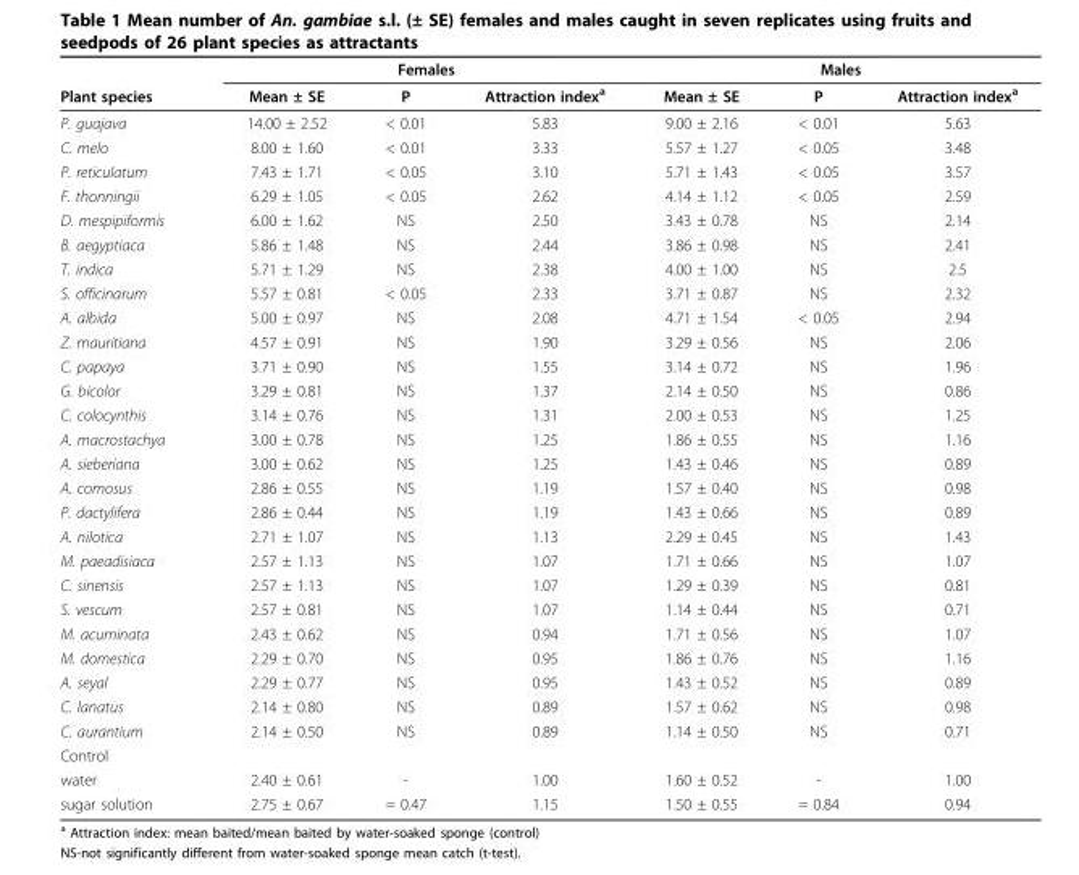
<table><thead><tr><td rowspan="2">Plant species</td><td colspan="3">Females</td><td colspan="3">Males</td></tr><tr><td>Mean ± SE</td><td>P</td><td>Attraction index<sup>a</sup></td><td>Mean ± SE</td><td>P</td><td>Attraction index<sup>a</sup></td></tr></thead><tbody><tr><td>P. guajava</td><td>14.00 ± 2.52</td><td>&lt; 0.01</td><td>5.83</td><td>9.00 ± 2.16</td><td>&lt; 0.01</td><td>5.63</td></tr><tr><td>C. melo</td><td>8.00 ± 1.60</td><td>&lt; 0.01</td><td>3.33</td><td>5.57 ± 1.27</td><td>&lt; 0.05</td><td>3.48</td></tr><tr><td>P. reticulatum</td><td>7.43 ± 1.71</td><td>&lt; 0.05</td><td>3.10</td><td>5.71 ± 1.43</td><td>&lt; 0.05</td><td>3.57</td></tr><tr><td>F. thonningii</td><td>6.29 ± 1.05</td><td>&lt; 0.05</td><td>2.62</td><td>4.14 ± 1.12</td><td>&lt; 0.05</td><td>2.59</td></tr><tr><td>D. mespipiformis</td><td>6.00 ± 1.62</td><td>NS</td><td>2.50</td><td>3.43 ± 0.78</td><td>NS</td><td>2.14</td></tr><tr><td>B. aegyptiaca</td><td>5.86 ± 1.48</td><td>NS</td><td>2.44</td><td>3.86 ± 0.98</td><td>NS</td><td>2.41</td></tr><tr><td>T. indica</td><td>5.71 ± 1.29</td><td>NS</td><td>2.38</td><td>4.00 ± 1.00</td><td>NS</td><td>2.5</td></tr><tr><td>S. officinarum</td><td>5.57 ± 0.81</td><td>&lt; 0.05</td><td>2.33</td><td>3.71 ± 0.87</td><td>NS</td><td>2.32</td></tr><tr><td>A. albida</td><td>5.00 ± 0.97</td><td>NS</td><td>2.08</td><td>4.71 ± 1.54</td><td>&lt; 0.05</td><td>2.94</td></tr><tr><td>Z. mauritiana</td><td>4.57 ± 0.91</td><td>NS</td><td>1.90</td><td>3.29 ± 0.56</td><td>NS</td><td>2.06</td></tr><tr><td>C. papaya</td><td>3.71 ± 0.90</td><td>NS</td><td>1.55</td><td>3.14 ± 0.72</td><td>NS</td><td>1.96</td></tr><tr><td>G. bicolor</td><td>3.29 ± 0.81</td><td>NS</td><td>1.37</td><td>2.14 ± 0.50</td><td>NS</td><td>0.86</td></tr><tr><td>C. colocynthis</td><td>3.14 ± 0.76</td><td>NS</td><td>1.31</td><td>2.00 ± 0.53</td><td>NS</td><td>1.25</td></tr><tr><td>A. macrostachya</td><td>3.00 ± 0.78</td><td>NS</td><td>1.25</td><td>1.86 ± 0.55</td><td>NS</td><td>1.16</td></tr><tr><td>A. sieberiana</td><td>3.00 ± 0.62</td><td>NS</td><td>1.25</td><td>1.43 ± 0.46</td><td>NS</td><td>0.89</td></tr><tr><td>A. comosus</td><td>2.86 ± 0.55</td><td>NS</td><td>1.19</td><td>1.57 ± 0.40</td><td>NS</td><td>0.98</td></tr><tr><td>P. dactylifera</td><td>2.86 ± 0.44</td><td>NS</td><td>1.19</td><td>1.43 ± 0.66</td><td>NS</td><td>0.89</td></tr><tr><td>A. nilotica</td><td>2.71 ± 1.07</td><td>NS</td><td>1.13</td><td>2.29 ± 0.45</td><td>NS</td><td>1.43</td></tr><tr><td>M. paeadisiaca</td><td>2.57 ± 1.13</td><td>NS</td><td>1.07</td><td>1.71 ± 0.66</td><td>NS</td><td>1.07</td></tr><tr><td>C. sinensis</td><td>2.57 ± 1.13</td><td>NS</td><td>1.07</td><td>1.29 ± 0.39</td><td>NS</td><td>0.81</td></tr><tr><td>S. vescum</td><td>2.57 ± 0.81</td><td>NS</td><td>1.07</td><td>1.14 ± 0.44</td><td>NS</td><td>0.71</td></tr><tr><td>M. acuminata</td><td>2.43 ± 0.62</td><td>NS</td><td>0.94</td><td>1.71 ± 0.56</td><td>NS</td><td>1.07</td></tr><tr><td>M. domestica</td><td>2.29 ± 0.70</td><td>NS</td><td>0.95</td><td>1.86 ± 0.76</td><td>NS</td><td>1.16</td></tr><tr><td>A. seyal</td><td>2.29 ± 0.77</td><td>NS</td><td>0.95</td><td>1.43 ± 0.52</td><td>NS</td><td>0.89</td></tr><tr><td>C. lanatus</td><td>2.14 ± 0.80</td><td>NS</td><td>0.89</td><td>1.57 ± 0.62</td><td>NS</td><td>0.98</td></tr><tr><td>C. aurantium</td><td>2.14 ± 0.50</td><td>NS</td><td>0.89</td><td>1.14 ± 0.50</td><td>NS</td><td>0.71</td></tr><tr><td colspan="7">Control</td></tr><tr><td>water</td><td>2.40 ± 0.61</td><td>-</td><td>1.00</td><td>1.60 ± 0.52</td><td>-</td><td>1.00</td></tr><tr><td>sugar solution</td><td>2.75 ± 0.67</td><td>= 0.47</td><td>1.15</td><td>1.50 ± 0.55</td><td>= 0.84</td><td>0.94</td></tr></tbody></table>